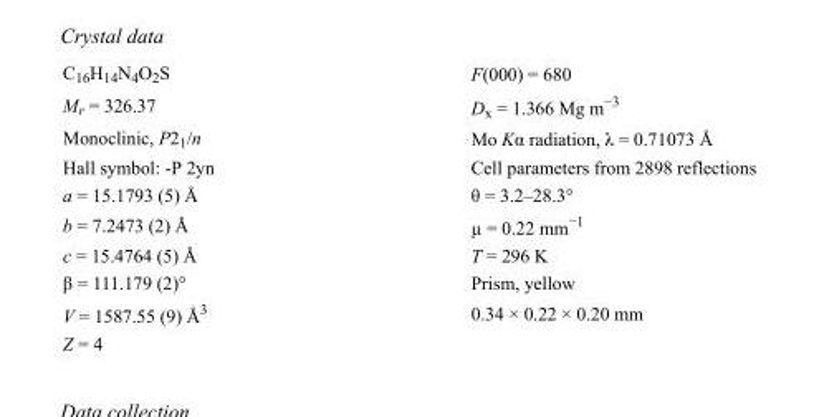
<table><tbody><tr><td>C<sub>16</sub>H<sub>14</sub>N<sub>4</sub>O<sub>2</sub>S</td><td>F(000) = 680</td></tr><tr><td>M<sub>r</sub> = 326.37</td><td>D<sub>x</sub> = 1.366 Mg m<sup>−3</sup></td></tr><tr><td>Monoclinic, P2<sub>1</sub>/n</td><td>Mo Kα radiation, λ = 0.71073 Å</td></tr><tr><td>Hall symbol: -P 2yn</td><td>Cell parameters from 2898 reflections</td></tr><tr><td>a = 15.1793 (5) Å</td><td>θ = 3.2–28.3°</td></tr><tr><td>b = 7.2473 (2) Å</td><td>µ = 0.22 mm<sup>−1</sup></td></tr><tr><td>c = 15.4764 (5) Å</td><td>T = 296 K</td></tr><tr><td>β = 111.179 (2)°</td><td>Prism, yellow</td></tr><tr><td>V = 1587.55 (9) Å<sup>3</sup></td><td>0.34 × 0.22 × 0.20 mm</td></tr><tr><td>Z = 4</td><td></td></tr></tbody></table>